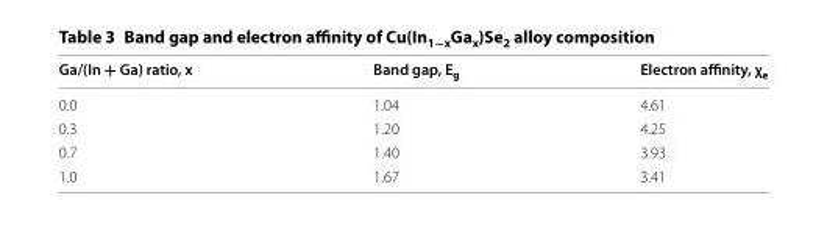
<table><thead><tr><td>Ga/(In + Ga) ratio, x</td><td>Band gap, E<sub>g</sub></td><td>Electron affinity, χ<sub>e</sub></td></tr></thead><tbody><tr><td>0.0</td><td>1.04</td><td>4.61</td></tr><tr><td>0.3</td><td>1.20</td><td>4.25</td></tr><tr><td>0.7</td><td>1.40</td><td>3.93</td></tr><tr><td>1.0</td><td>1.67</td><td>3.41</td></tr></tbody></table>